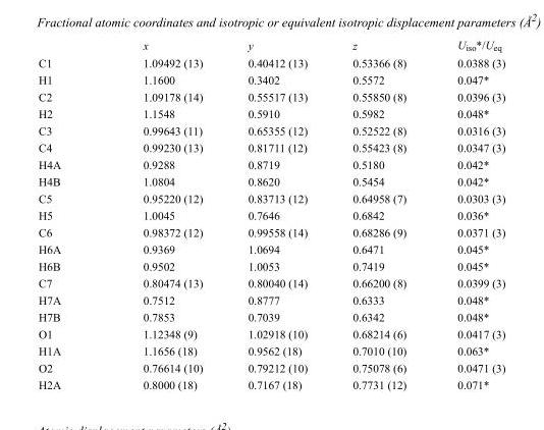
<table><thead><tr><td></td><td>x</td><td>y</td><td>z</td><td>U<sub>iso</sub>*/U<sub>eq</sub></td></tr></thead><tbody><tr><td>C1</td><td>1.09492 (13)</td><td>0.40412 (13)</td><td>0.53366 (8)</td><td>0.0388 (3)</td></tr><tr><td>H1</td><td>1.1600</td><td>0.3402</td><td>0.5572</td><td>0.047*</td></tr><tr><td>C2</td><td>1.09178 (14)</td><td>0.55517 (13)</td><td>0.55850 (8)</td><td>0.0396 (3)</td></tr><tr><td>H2</td><td>1.1548</td><td>0.5910</td><td>0.5982</td><td>0.048*</td></tr><tr><td>C3</td><td>0.99643 (11)</td><td>0.65355 (12)</td><td>0.52522 (8)</td><td>0.0316 (3)</td></tr><tr><td>C4</td><td>0.99230 (13)</td><td>0.81711 (12)</td><td>0.55423 (8)</td><td>0.0347 (3)</td></tr><tr><td>H4A</td><td>0.9288</td><td>0.8719</td><td>0.5180</td><td>0.042*</td></tr><tr><td>H4B</td><td>1.0804</td><td>0.8620</td><td>0.5454</td><td>0.042*</td></tr><tr><td>C5</td><td>0.95220 (12)</td><td>0.83713 (12)</td><td>0.64958 (7)</td><td>0.0303 (3)</td></tr><tr><td>H5</td><td>1.0045</td><td>0.7646</td><td>0.6842</td><td>0.036*</td></tr><tr><td>C6</td><td>0.98372 (12)</td><td>0.99558 (14)</td><td>0.68286 (9)</td><td>0.0371 (3)</td></tr><tr><td>H6A</td><td>0.9369</td><td>1.0694</td><td>0.6471</td><td>0.045*</td></tr><tr><td>H6B</td><td>0.9502</td><td>1.0053</td><td>0.7419</td><td>0.045*</td></tr><tr><td>C7</td><td>0.80474 (13)</td><td>0.80040 (14)</td><td>0.66200 (8)</td><td>0.0399 (3)</td></tr><tr><td>H7A</td><td>0.7512</td><td>0.8777</td><td>0.6333</td><td>0.048*</td></tr><tr><td>H7B</td><td>0.7853</td><td>0.7039</td><td>0.6342</td><td>0.048*</td></tr><tr><td>O1</td><td>1.12348 (9)</td><td>1.02918 (10)</td><td>0.68214 (6)</td><td>0.0417 (3)</td></tr><tr><td>H1A</td><td>1.1656 (18)</td><td>0.9562 (18)</td><td>0.7010 (10)</td><td>0.063*</td></tr><tr><td>O2</td><td>0.76614 (10)</td><td>0.79212 (10)</td><td>0.75078 (6)</td><td>0.0471 (3)</td></tr><tr><td>H2A</td><td>0.8000 (18)</td><td>0.7167 (18)</td><td>0.7731 (12)</td><td>0.071*</td></tr></tbody></table>